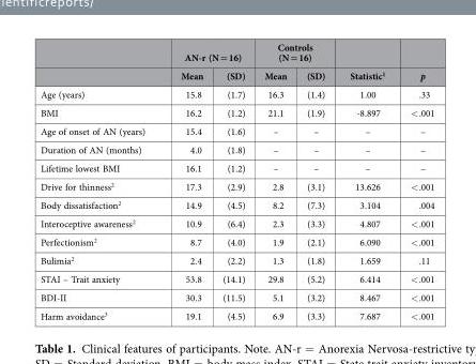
<table><thead><tr><td rowspan="2"></td><td colspan="2">AN-r (N = 16)</td><td colspan="2">Controls (N = 16)</td><td rowspan="2">Statistic<sup>1</sup></td><td rowspan="2">p</td></tr><tr><td>Mean</td><td>(SD)</td><td>Mean</td><td>(SD)</td></tr></thead><tbody><tr><td>Age (years)</td><td>15.8</td><td>(1.7)</td><td>16.3</td><td>(1.4)</td><td>1.00</td><td>.33</td></tr><tr><td>BMI</td><td>16.2</td><td>(1.2)</td><td>21.1</td><td>(1.9)</td><td>-8.897</td><td>&lt; .001</td></tr><tr><td>Age of onset of AN (years)</td><td>15.4</td><td>(1.6)</td><td>–</td><td>–</td><td>–</td><td>–</td></tr><tr><td>Duration of AN (months)</td><td>4.0</td><td>(1.8)</td><td>–</td><td>–</td><td>–</td><td>–</td></tr><tr><td>Lifetime lowest BMI</td><td>16.1</td><td>(1.2)</td><td>–</td><td>–</td><td>–</td><td>–</td></tr><tr><td>Drive for thinness<sup>2</sup></td><td>17.3</td><td>(2.9)</td><td>2.8</td><td>(3.1)</td><td>13.626</td><td>&lt; .001</td></tr><tr><td>Body dissatisfaction<sup>2</sup></td><td>14.9</td><td>(4.5)</td><td>8.2</td><td>(7.3)</td><td>3.104</td><td>.004</td></tr><tr><td>Interoceptive awareness<sup>2</sup></td><td>10.9</td><td>(6.4)</td><td>2.3</td><td>(3.3)</td><td>4.807</td><td>&lt; .001</td></tr><tr><td>Perfectionism<sup>2</sup></td><td>8.7</td><td>(4.0)</td><td>1.9</td><td>(2.1)</td><td>6.090</td><td>&lt; .001</td></tr><tr><td>Bulimia<sup>2</sup></td><td>2.4</td><td>(2.2)</td><td>1.3</td><td>(1.8)</td><td>1.659</td><td>.11</td></tr><tr><td>STAI – Trait anxiety</td><td>53.8</td><td>(14.1)</td><td>29.8</td><td>(5.2)</td><td>6.414</td><td>&lt; .001</td></tr><tr><td>BDI-II</td><td>30.3</td><td>(11.5)</td><td>5.1</td><td>(3.2)</td><td>8.467</td><td>&lt; .001</td></tr><tr><td>Harm avoidance<sup>3</sup></td><td>19.1</td><td>(4.5)</td><td>6.9</td><td>(3.3)</td><td>7.687</td><td>&lt; .001</td></tr></tbody></table>